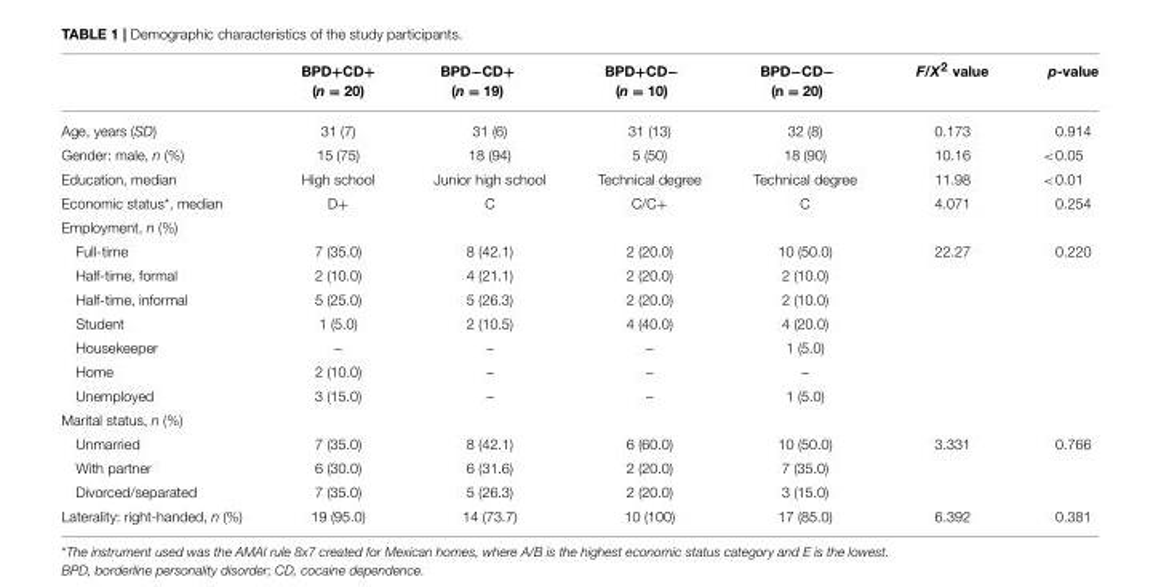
<table><thead><tr><td></td><td>BPD+CD+ (n = 20)</td><td>BPD−CD+ (n = 19)</td><td>BPD+CD− (n = 10)</td><td>BPD−CD− (n = 20)</td><td>F/X<sup>2</sup> value</td><td>p-value</td></tr></thead><tbody><tr><td>Age, years (SD)</td><td>31 (7)</td><td>31 (6)</td><td>31 (13)</td><td>32 (8)</td><td>0.173</td><td>0.914</td></tr><tr><td>Gender: male, n (%)</td><td>15 (75)</td><td>18 (94)</td><td>5 (50)</td><td>18 (90)</td><td>10.16</td><td>&lt;0.05</td></tr><tr><td>Education, median</td><td>High school</td><td>Junior high school</td><td>Technical degree</td><td>Technical degree</td><td>11.98</td><td>&lt;0.01</td></tr><tr><td>Economic status*, median</td><td>D+</td><td>C</td><td>C/C+</td><td>C</td><td>4.071</td><td>0.254</td></tr><tr><td colspan="7">Employment, n (%)</td></tr><tr><td>Full-time</td><td>7 (35.0)</td><td>8 (42.1)</td><td>2 (20.0)</td><td>10 (50.0)</td><td>22.27</td><td>0.220</td></tr><tr><td>Half-time, formal</td><td>2 (10.0)</td><td>4 (21.1)</td><td>2 (20.0)</td><td>2 (10.0)</td><td></td><td></td></tr><tr><td>Half-time, informal</td><td>5 (25.0)</td><td>5 (26.3)</td><td>2 (20.0)</td><td>2 (10.0)</td><td></td><td></td></tr><tr><td>Student</td><td>1 (5.0)</td><td>2 (10.5)</td><td>4 (40.0)</td><td>4 (20.0)</td><td></td><td></td></tr><tr><td>Housekeeper</td><td>–</td><td>–</td><td>–</td><td>1 (5.0)</td><td></td><td></td></tr><tr><td>Home</td><td>2 (10.0)</td><td>–</td><td>–</td><td>–</td><td></td><td></td></tr><tr><td>Unemployed</td><td>3 (15.0)</td><td>–</td><td>–</td><td>1 (5.0)</td><td></td><td></td></tr><tr><td colspan="7">Marital status, n (%)</td></tr><tr><td>Unmarried</td><td>7 (35.0)</td><td>8 (42.1)</td><td>6 (60.0)</td><td>10 (50.0)</td><td>3.331</td><td>0.766</td></tr><tr><td>With partner</td><td>6 (30.0)</td><td>6 (31.6)</td><td>2 (20.0)</td><td>7 (35.0)</td><td></td><td></td></tr><tr><td>Divorced/separated</td><td>7 (35.0)</td><td>5 (26.3)</td><td>2 (20.0)</td><td>3 (15.0)</td><td></td><td></td></tr><tr><td>Laterality: right-handed, n (%)</td><td>19 (95.0)</td><td>14 (73.7)</td><td>10 (100)</td><td>17 (85.0)</td><td>6.392</td><td>0.381</td></tr></tbody></table>